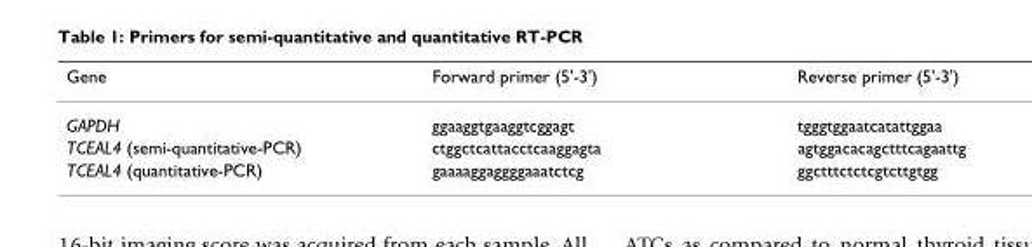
<table><thead><tr><td>Gene</td><td>Forward primer (5&#x27;-3&#x27;)</td><td>Reverse primer (5&#x27;-3&#x27;)</td></tr></thead><tbody><tr><td>GAPDH</td><td>ggaaggtgaaggtcggagt</td><td>tgggtggaatcatattggaa</td></tr><tr><td>TCEAL4 (semi-quantitative-PCR)</td><td>ctggctcattacctcaaggagta</td><td>agtggacacagctttcagaattg</td></tr><tr><td>TCEAL4 (quantitative-PCR)</td><td>gaaaaggaggggaaatctcg</td><td>ggctttctctcgtcttgtgg</td></tr></tbody></table>